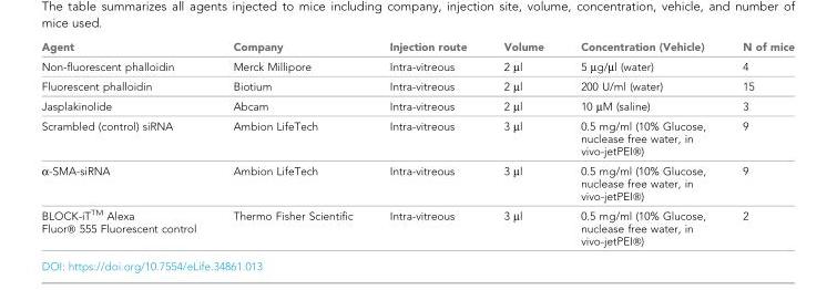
<table><thead><tr><td>Agent</td><td>Company</td><td>Injection route</td><td>Volume</td><td>Concentration (Vehicle)</td><td>N of mice</td></tr></thead><tbody><tr><td>Non-fluorescent phalloidin</td><td>Merck Millipore</td><td>Intra-vitreous</td><td>2 μl</td><td>5 µg/µl (water)</td><td>4</td></tr><tr><td>Fluorescent phalloidin</td><td>Biotium</td><td>Intra-vitreous</td><td>2 μl</td><td>200 U/ml (water)</td><td>15</td></tr><tr><td>Jasplakinolide</td><td>Abcam</td><td>Intra-vitreous</td><td>2 μl</td><td>10 μM (saline)</td><td>3</td></tr><tr><td>Scrambled (control) siRNA</td><td>Ambion LifeTech</td><td>Intra-vitreous</td><td>3 μl</td><td>0.5 mg/ml (10% Glucose, nuclease free water, in vivo-jetPEI®)</td><td>9</td></tr><tr><td>α-SMA-siRNA</td><td>Ambion LifeTech</td><td>Intra-vitreous</td><td>3 μl</td><td>0.5 mg/ml (10% Glucose, nuclease free water, in vivo-jetPEI®)</td><td>9</td></tr><tr><td>BLOCK-iT<sup>TM</sup> Alexa Fluor® 555 Fluorescent control</td><td>Thermo Fisher Scientific</td><td>Intra-vitreous</td><td>3 μl</td><td>0.5 mg/ml (10% Glucose, nuclease free water, in vivo-jetPEI®)</td><td>2</td></tr></tbody></table>